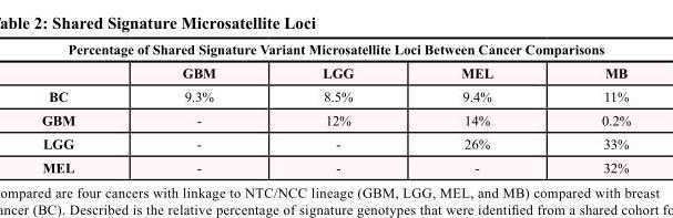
<table><thead><tr><td colspan="5">Percentage of Shared Signature Variant Microsatellite Loci Between Cancer Comparisons</td></tr><tr><td></td><td>GBM</td><td>LGG</td><td>MEL</td><td>MB</td></tr></thead><tbody><tr><td>BC</td><td>9.3%</td><td>8.5%</td><td>9.4%</td><td>11%</td></tr><tr><td>GBM</td><td>-</td><td>12%</td><td>14%</td><td>0.2%</td></tr><tr><td>LGG</td><td>-</td><td>-</td><td>26%</td><td>33%</td></tr><tr><td>MEL</td><td>-</td><td>-</td><td>-</td><td>32%</td></tr></tbody></table>